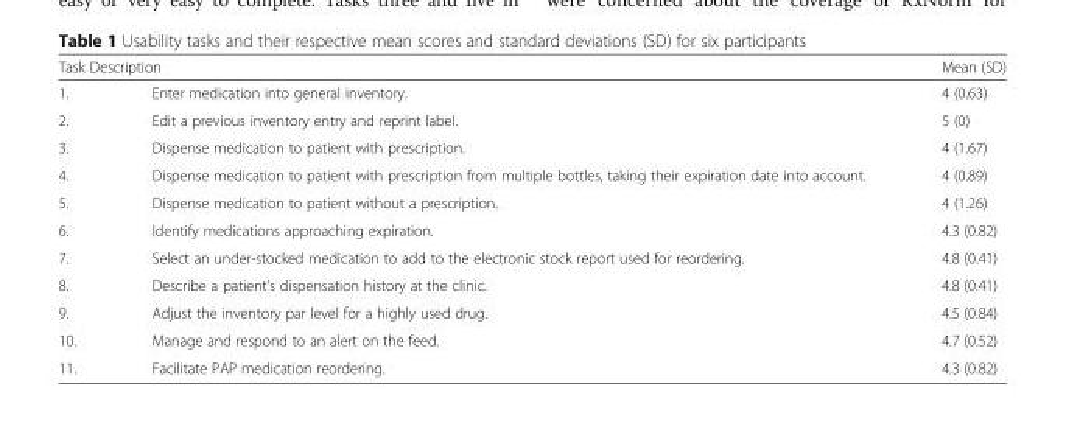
<table><thead><tr><td colspan="2">Task Description</td><td rowspan="2">Mean (SD) 4 (0.63)</td></tr><tr><td>1.</td><td>Enter medication into general inventory.</td></tr></thead><tbody><tr><td>2.</td><td>Edit a previous inventory entry and reprint label.</td><td>5 (0)</td></tr><tr><td>3.</td><td>Dispense medication to patient with prescription.</td><td>4 (1.67)</td></tr><tr><td>4.</td><td>Dispense medication to patient with prescription from multiple bottles, taking their expiration date into account.</td><td>4 (0.89)</td></tr><tr><td>5.</td><td>Dispense medication to patient without a prescription.</td><td>4 (1.26)</td></tr><tr><td>6.</td><td>Identify medications approaching expiration.</td><td>4.3 (0.82)</td></tr><tr><td>7.</td><td>Select an under-stocked medication to add to the electronic stock report used for reordering.</td><td>4.8 (0.41)</td></tr><tr><td>8.</td><td>Describe a patient’s dispensation history at the clinic.</td><td>4.8 (0.41)</td></tr><tr><td>9.</td><td>Adjust the inventory par level for a highly used drug.</td><td>4.5 (0.84)</td></tr><tr><td>10.</td><td>Manage and respond to an alert on the feed.</td><td>4.7 (0.52)</td></tr><tr><td>11.</td><td>Facilitate PAP medication reordering.</td><td>4.3 (0.82)</td></tr></tbody></table>